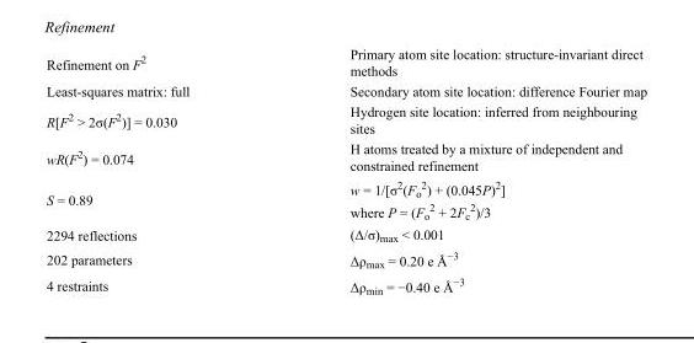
<table><tbody><tr><td>Refinement on F<sup>2</sup></td><td>Primary atom site location: structure-invariant direct methods</td></tr><tr><td>Least-squares matrix: full</td><td>Secondary atom site location: difference Fourier map</td></tr><tr><td>R[F<sup>2</sup> &gt; 2σ(F<sup>2</sup>)] = 0.030</td><td>Hydrogen site location: inferred from neighbouring sites</td></tr><tr><td>wR(F<sup>2</sup>) = 0.074</td><td>H atoms treated by a mixture of independent and constrained refinement</td></tr><tr><td>S = 0.89</td><td>w = 1/[σ<sup>2</sup>(F<sub>o</sub> <sup>2</sup>) + (0.045P)<sup>2</sup>] where P = (F<sub>o</sub> <sup>2</sup> + 2F<sub>c</sub> <sup>2</sup>)/3</td></tr><tr><td>2294 reflections</td><td>(Δ/σ)<sub>max</sub> &lt; 0.001</td></tr><tr><td>202 parameters</td><td>Δρ<sub>max</sub> = 0.20 e Å<sup>−3</sup></td></tr><tr><td>4 restraints</td><td>Δρ<sub>min</sub> = −0.40 e Å<sup>−3</sup></td></tr></tbody></table>